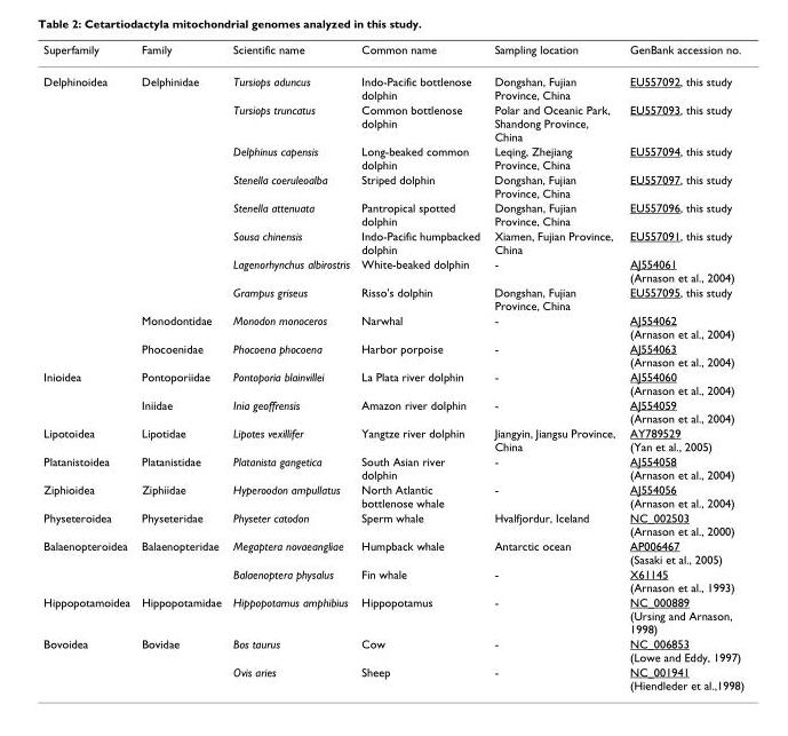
<table><thead><tr><td>Superfamily</td><td>Family</td><td>Scientific name</td><td>Common name</td><td>Sampling location</td><td>GenBank accession no.</td></tr></thead><tbody><tr><td rowspan="10">Delphinoidea</td><td>Delphinidae</td><td>Tursiops aduncus</td><td>Indo-Pacific bottlenose dolphin</td><td>Dongshan, Fujian Province, China</td><td>EU557092, this study</td></tr><tr><td></td><td>Tursiops truncatus</td><td>Common bottlenose dolphin</td><td>Polar and Oceanic Park, Shandong Province, China</td><td>EU557093, this study</td></tr><tr><td></td><td>Delphinus capensis</td><td>Long-beaked common dolphin</td><td>Leqing, Zhejiang Province, China</td><td>EU557094, this study</td></tr><tr><td></td><td>Stenella coeruleoalba</td><td>Striped dolphin</td><td>Dongshan, Fujian Province, China</td><td>EU557097, this study</td></tr><tr><td></td><td>Stenella attenuata</td><td>Pantropical spotted dolphin</td><td>Dongshan, Fujian Province, China</td><td>EU557096, this study</td></tr><tr><td></td><td>Sousa chinensis</td><td>Indo-Pacific humpbacked dolphin</td><td>Xiamen, Fujian Province, China</td><td>EU557091, this study</td></tr><tr><td></td><td>Lagenorhynchus albirostris</td><td>White-beaked dolphin</td><td>-</td><td>AJ554061 (Arnason et al., 2004)</td></tr><tr><td></td><td>Grampus griseus</td><td>Risso&#x27;s dolphin</td><td>Dongshan, Fujian Province, China</td><td>EU557095, this study</td></tr><tr><td>Monodontidae</td><td>Monodon monoceros</td><td>Narwhal</td><td>-</td><td>AJ554062 (Arnason et al., 2004)</td></tr><tr><td>Phocoenidae</td><td>Phocoena phocoena</td><td>Harbor porpoise</td><td>-</td><td>AJ554063 (Arnason et al., 2004)</td></tr><tr><td rowspan="2">Inioidea</td><td>Pontoporiidae</td><td>Pontoporia blainvillei</td><td>La Plata river dolphin</td><td>-</td><td>AJ554060 (Arnason et al., 2004)</td></tr><tr><td>Iniidae</td><td>Inia geoffrensis</td><td>Amazon river dolphin</td><td>-</td><td>AJ554059 (Arnason et al., 2004)</td></tr><tr><td>Lipotoidea</td><td>Lipotidae</td><td>Lipotes vexillifer</td><td>Yangtze river dolphin</td><td>Jiangyin, Jiangsu Province, China</td><td>AY789529 (Yan et al., 2005)</td></tr><tr><td>Platanistoidea</td><td>Platanistidae</td><td>Platanista gangetica</td><td>South Asian river dolphin</td><td>-</td><td>AJ554058 (Arnason et al., 2004)</td></tr><tr><td>Ziphioidea</td><td>Ziphiidae</td><td>Hyperoodon ampullatus</td><td>North Atlantic bottlenose whale</td><td>-</td><td>AJ554056 (Arnason et al., 2004)</td></tr><tr><td>Physeteroidea</td><td>Physeteridae</td><td>Physeter catodon</td><td>Sperm whale</td><td>Hvalfjordur, Iceland</td><td>NC_002503 (Arnason et al., 2000)</td></tr><tr><td rowspan="2">Balaenopteroidea</td><td>Balaenopteridae</td><td>Megaptera novaeangliae</td><td>Humpback whale</td><td>Antarctic ocean</td><td>AP006467 (Sasaki et al., 2005)</td></tr><tr><td></td><td>Balaenoptera physalus</td><td>Fin whale</td><td>-</td><td>X61145 (Arnason et al., 1993)</td></tr><tr><td>Hippopotamoidea</td><td>Hippopotamidae</td><td>Hippopotamus amphibius</td><td>Hippopotamus</td><td>-</td><td>NC_000889 (Ursing and Arnason, 1998)</td></tr><tr><td rowspan="2">Bovoidea</td><td>Bovidae</td><td>Bos taurus</td><td>Cow</td><td>-</td><td>NC_006853 (Lowe and Eddy, 1997)</td></tr><tr><td></td><td>Ovis aries</td><td>Sheep</td><td>-</td><td>NC_001941 (Hiendleder et al.,1998)</td></tr></tbody></table>